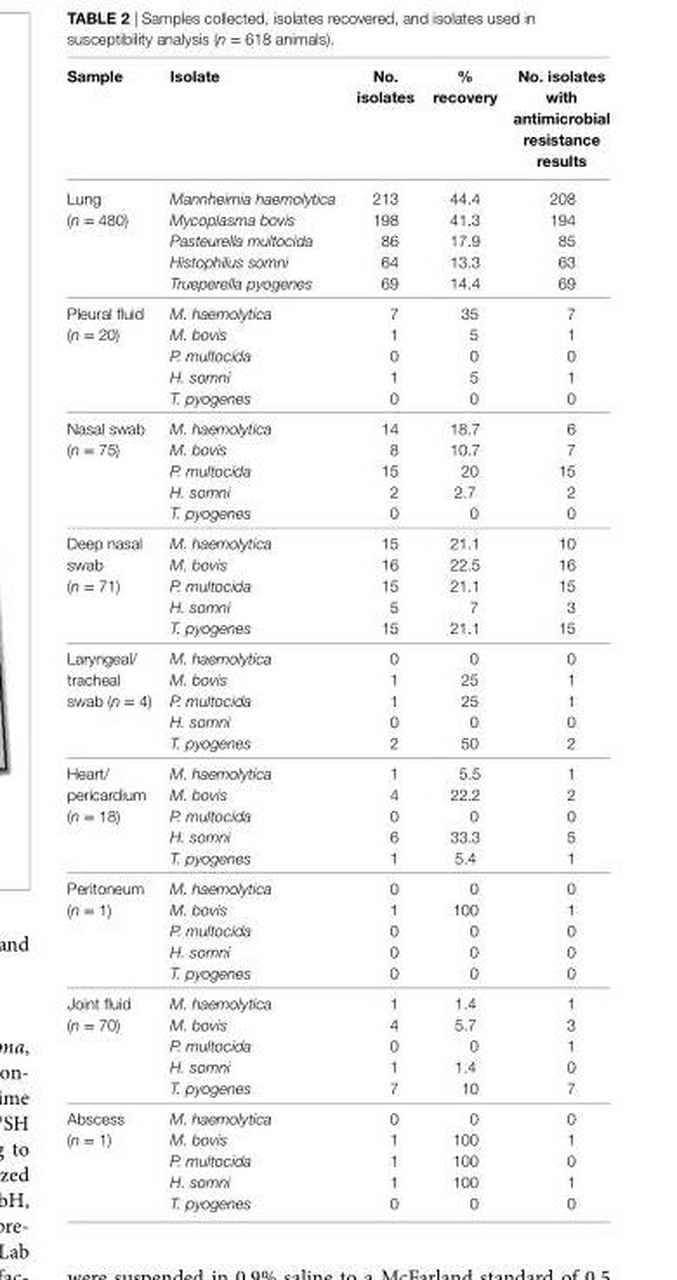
<table><thead><tr><td>sample</td><td>isolate</td><td>no. isolates</td><td>% recovery</td><td>no. isolates with antimicrobial resistance results</td></tr></thead><tbody><tr><td rowspan="5">Lung (n = 480)</td><td>Mannheimia haemolytica</td><td>213</td><td>44.4</td><td>208</td></tr><tr><td>Mycoplasma bovis</td><td>198</td><td>41.3</td><td>194</td></tr><tr><td>Pasteurella multocida</td><td>86</td><td>17.9</td><td>85</td></tr><tr><td>Histophilus somni</td><td>64</td><td>13.3</td><td>63</td></tr><tr><td>Trueperella pyogenes</td><td>69</td><td>14.4</td><td>69</td></tr><tr><td rowspan="5">Pleural fluid (n = 20)</td><td>M. haemolytica</td><td>7</td><td>35</td><td>7</td></tr><tr><td>M. bovis</td><td>1</td><td>5</td><td>1</td></tr><tr><td>P. multocida</td><td>0</td><td>0</td><td>0</td></tr><tr><td>H. somni</td><td>1</td><td>5</td><td>1</td></tr><tr><td>T. pyogenes</td><td>0</td><td>0</td><td>0</td></tr><tr><td rowspan="5">Nasal swab (n = 75)</td><td>M. haemolytica</td><td>14</td><td>18.7</td><td>6</td></tr><tr><td>M. bovis</td><td>8</td><td>10.7</td><td>7</td></tr><tr><td>P. multocida</td><td>15</td><td>20</td><td>15</td></tr><tr><td>H. somni</td><td>2</td><td>2.7</td><td>2</td></tr><tr><td>T. pyogenes</td><td>0</td><td>0</td><td>0</td></tr><tr><td rowspan="5">Deep nasal swab (n = 71)</td><td>M. haemolytica</td><td>15</td><td>21.1</td><td>10</td></tr><tr><td>M. bovis</td><td>16</td><td>22.5</td><td>16</td></tr><tr><td>P. multocida</td><td>15</td><td>21.1</td><td>15</td></tr><tr><td>H. somni</td><td>5</td><td>7</td><td>3</td></tr><tr><td>T. pyogenes</td><td>15</td><td>21.1</td><td>15</td></tr><tr><td rowspan="5">Laryngeal/ tracheal swab (n = 4)</td><td>M. haemolytica</td><td>0</td><td>0</td><td>0</td></tr><tr><td>M. bovis</td><td>1</td><td>25</td><td>1</td></tr><tr><td>P. multocida</td><td>1</td><td>25</td><td>1</td></tr><tr><td>H. somni</td><td>0</td><td>0</td><td>0</td></tr><tr><td>T. pyogenes</td><td>2</td><td>50</td><td>2</td></tr><tr><td rowspan="5">Heart/ pericardium (n = 18)</td><td>M. haemolytica</td><td>1</td><td>5.5</td><td>1</td></tr><tr><td>M. bovis</td><td>4</td><td>22.2</td><td>2</td></tr><tr><td>P. multocida</td><td>0</td><td>0</td><td>0</td></tr><tr><td>H. somni</td><td>6</td><td>33.3</td><td>5</td></tr><tr><td>T. pyogenes</td><td>1</td><td>5.4</td><td>1</td></tr><tr><td rowspan="5">Peritoneum (n = 1)</td><td>M. haemolytica</td><td>0</td><td>0</td><td>0</td></tr><tr><td>M. bovis</td><td>1</td><td>100</td><td>1</td></tr><tr><td>P. multocida</td><td>0</td><td>0</td><td>0</td></tr><tr><td>H. somni</td><td>0</td><td>0</td><td>0</td></tr><tr><td>T. pyogenes</td><td>0</td><td>0</td><td>0</td></tr><tr><td rowspan="5">Joint fluid (n = 70)</td><td>M. haemolytica</td><td>1</td><td>1.4</td><td>1</td></tr><tr><td>M. bovis</td><td>4</td><td>5.7</td><td>3</td></tr><tr><td>P. multocida</td><td>0</td><td>0</td><td>1</td></tr><tr><td>H. somni</td><td>1</td><td>1.4</td><td>0</td></tr><tr><td>T. pyogenes</td><td>7</td><td>10</td><td>7</td></tr><tr><td rowspan="5">Abscess (n = 1)</td><td>M. haemolytica</td><td>0</td><td>0</td><td>0</td></tr><tr><td>M. bovis</td><td>1</td><td>100</td><td>1</td></tr><tr><td>P. multocida</td><td>1</td><td>100</td><td>0</td></tr><tr><td>H. somni</td><td>1</td><td>100</td><td>1</td></tr><tr><td>T. pyogenes</td><td>0</td><td>0</td><td>0</td></tr></tbody></table>